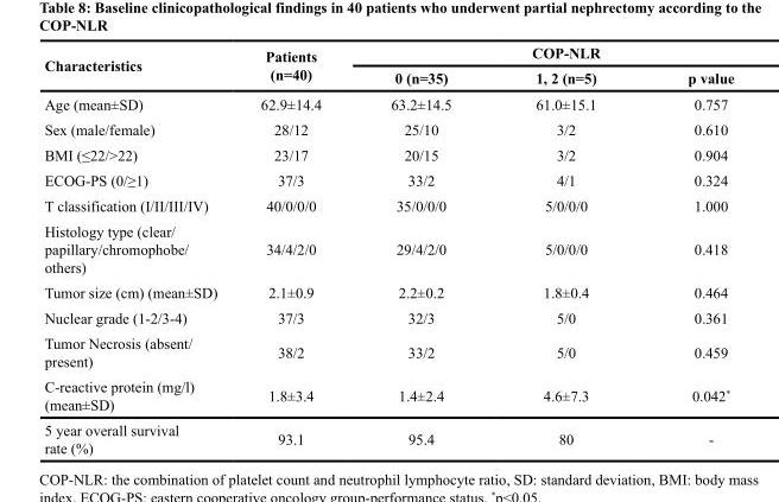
<table><thead><tr><td rowspan="2">Characteristics</td><td rowspan="2">Patients (n=40)</td><td colspan="3">COP-NLR</td></tr><tr><td>0 (n=35)</td><td>1, 2 (n=5)</td><td>p value</td></tr></thead><tbody><tr><td>Age (mean±SD)</td><td>62.9±14.4</td><td>63.2±14.5</td><td>61.0±15.1</td><td>0.757</td></tr><tr><td>Sex (male/female)</td><td>28/12</td><td>25/10</td><td>3/2</td><td>0.610</td></tr><tr><td>BMI (≤22/&gt;22)</td><td>23/17</td><td>20/15</td><td>3/2</td><td>0.904</td></tr><tr><td>ECOG-PS (0/≥1)</td><td>37/3</td><td>33/2</td><td>4/1</td><td>0.324</td></tr><tr><td>T classification (I/II/III/IV)</td><td>40/0/0/0</td><td>35/0/0/0</td><td>5/0/0/0</td><td>1.000</td></tr><tr><td>Histology type (clear/ papillary/chromophobe/ others)</td><td>34/4/2/0</td><td>29/4/2/0</td><td>5/0/0/0</td><td>0.418</td></tr><tr><td>Tumor size (cm) (mean±SD)</td><td>2.1±0.9</td><td>2.2±0.2</td><td>1.8±0.4</td><td>0.464</td></tr><tr><td>Nuclear grade (1-2/3-4)</td><td>37/3</td><td>32/3</td><td>5/0</td><td>0.361</td></tr><tr><td>Tumor Necrosis (absent/ present)</td><td>38/2</td><td>33/2</td><td>5/0</td><td>0.459</td></tr><tr><td>C-reactive protein (mg/l) (mean±SD)</td><td>1.8±3.4</td><td>1.4±2.4</td><td>4.6±7.3</td><td>0.042*</td></tr><tr><td>5 year overall survival rate (%)</td><td>93.1</td><td>95.4</td><td>80</td><td>-</td></tr></tbody></table>